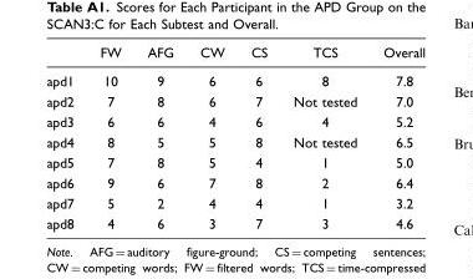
<table><thead><tr><td></td><td>FW</td><td>AFG</td><td>CW</td><td>CS</td><td>TCS</td><td>Overall</td></tr></thead><tbody><tr><td>apd1</td><td>10</td><td>9</td><td>6</td><td>6</td><td>8</td><td>7.8</td></tr><tr><td>apd2</td><td>7</td><td>8</td><td>6</td><td>7</td><td>Not tested</td><td>7.0</td></tr><tr><td>apd3</td><td>6</td><td>6</td><td>4</td><td>6</td><td>4</td><td>5.2</td></tr><tr><td>apd4</td><td>8</td><td>5</td><td>5</td><td>8</td><td>Not tested</td><td>6.5</td></tr><tr><td>apd5</td><td>7</td><td>8</td><td>5</td><td>4</td><td>1</td><td>5.0</td></tr><tr><td>apd6</td><td>9</td><td>6</td><td>7</td><td>8</td><td>2</td><td>6.4</td></tr><tr><td>apd7</td><td>5</td><td>2</td><td>4</td><td>4</td><td>1</td><td>3.2</td></tr><tr><td>apd8</td><td>4</td><td>6</td><td>3</td><td>7</td><td>3</td><td>4.6</td></tr></tbody></table>